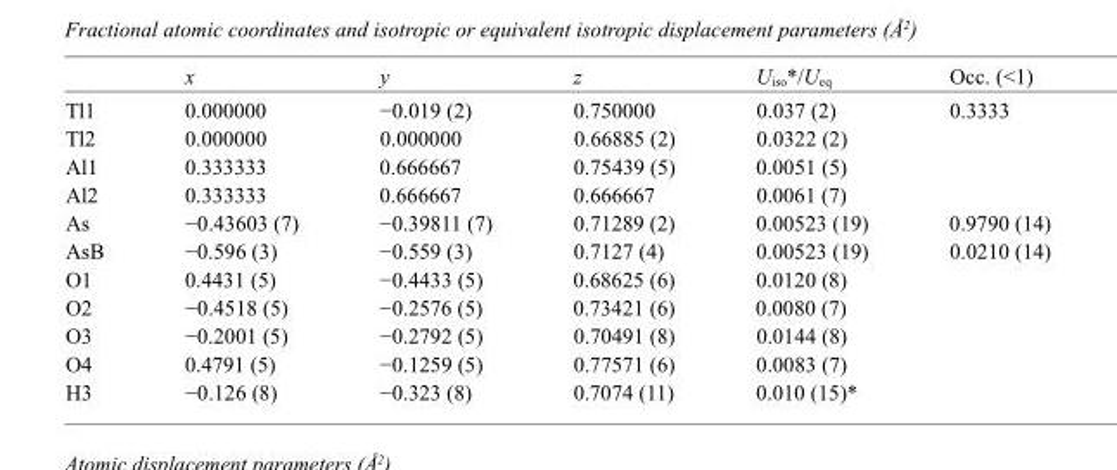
<table><thead><tr><td></td><td>x</td><td>y</td><td>z</td><td>U<sub>iso</sub>*/U<sub>eq</sub></td><td>Occ. (&lt;1)</td></tr></thead><tbody><tr><td>Tl1</td><td>0.000000</td><td>−0.019 (2)</td><td>0.750000</td><td>0.037 (2)</td><td>0.3333</td></tr><tr><td>Tl2</td><td>0.000000</td><td>0.000000</td><td>0.66885 (2)</td><td>0.0322 (2)</td><td></td></tr><tr><td>Al1</td><td>0.333333</td><td>0.666667</td><td>0.75439 (5)</td><td>0.0051 (5)</td><td></td></tr><tr><td>Al2</td><td>0.333333</td><td>0.666667</td><td>0.666667</td><td>0.0061 (7)</td><td></td></tr><tr><td>As</td><td>−0.43603 (7)</td><td>−0.39811 (7)</td><td>0.71289 (2)</td><td>0.00523 (19)</td><td>0.9790 (14)</td></tr><tr><td>AsB</td><td>−0.596 (3)</td><td>−0.559 (3)</td><td>0.7127 (4)</td><td>0.00523 (19)</td><td>0.0210 (14)</td></tr><tr><td>O1</td><td>0.4431 (5)</td><td>−0.4433 (5)</td><td>0.68625 (6)</td><td>0.0120 (8)</td><td></td></tr><tr><td>O2</td><td>−0.4518 (5)</td><td>−0.2576 (5)</td><td>0.73421 (6)</td><td>0.0080 (7)</td><td></td></tr><tr><td>O3</td><td>−0.2001 (5)</td><td>−0.2792 (5)</td><td>0.70491 (8)</td><td>0.0144 (8)</td><td></td></tr><tr><td>O4</td><td>0.4791 (5)</td><td>−0.1259 (5)</td><td>0.77571 (6)</td><td>0.0083 (7)</td><td></td></tr><tr><td>H3</td><td>−0.126 (8)</td><td>−0.323 (8)</td><td>0.7074 (11)</td><td>0.010 (15)*</td><td></td></tr></tbody></table>